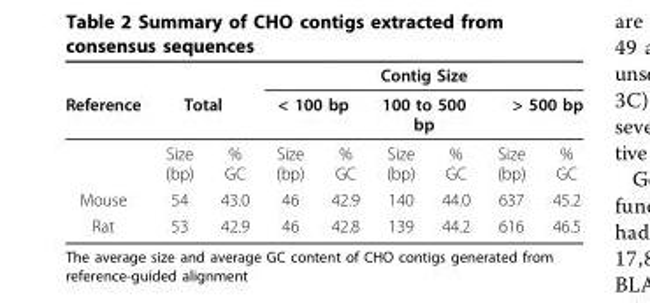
<table><thead><tr><td rowspan="3">Reference</td><td></td><td></td><td colspan="6">Contig Size</td></tr><tr><td colspan="2">Total</td><td colspan="2">&lt; 100 bp</td><td colspan="2">100 to 500 bp</td><td colspan="2">&gt; 500 bp</td></tr><tr><td>Size (bp)</td><td>% GC</td><td>Size (bp)</td><td>% GC</td><td>Size (bp)</td><td>% GC</td><td>Size (bp)</td><td>% GC</td></tr></thead><tbody><tr><td>Mouse</td><td>54</td><td>43.0</td><td>46</td><td>42.9</td><td>140</td><td>44.0</td><td>637</td><td>45.2</td></tr><tr><td>Rat</td><td>53</td><td>42.9</td><td>46</td><td>42.8</td><td>139</td><td>44.2</td><td>616</td><td>46.5</td></tr></tbody></table>